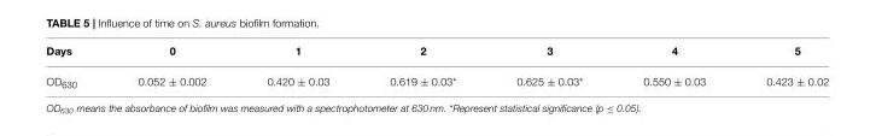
<table><thead><tr><td>Days</td><td>0</td><td>1</td><td>2</td><td>3</td><td>4</td><td>5</td></tr></thead><tbody><tr><td>OD<sub>630</sub></td><td>0.052 ± 0.002</td><td>0.420 ± 0.03</td><td>0.619 ± 0.03*</td><td>0.625 ± 0.03*</td><td>0.550 ± 0.03</td><td>0.423 ± 0.02</td></tr></tbody></table>